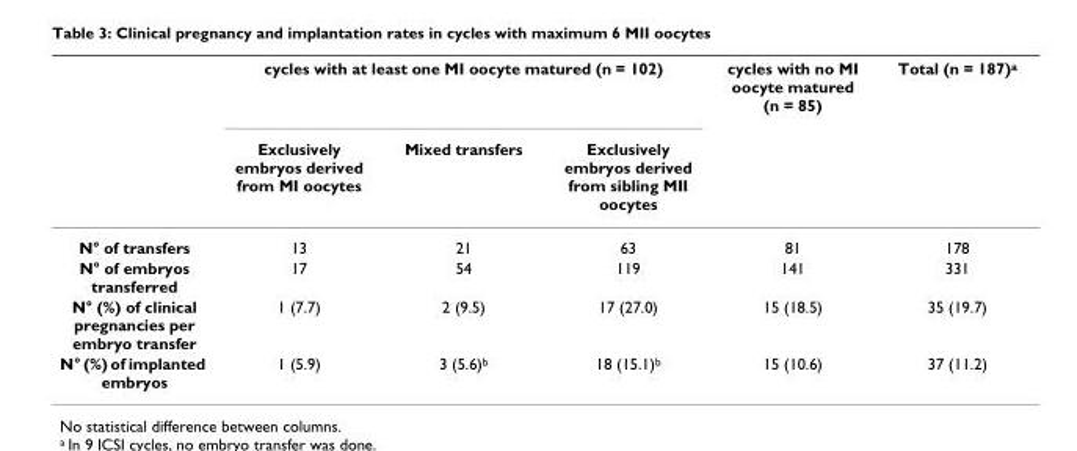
<table><thead><tr><td rowspan="2"></td><td colspan="3">cycles with at least one MI oocyte matured (n = 102)</td><td rowspan="2">cycles with no MI oocyte matured (n = 85)</td><td rowspan="2">Total (n = 187)<sup>a</sup></td></tr><tr><td>Exclusively embryos derived from MI oocytes</td><td>Mixed transfers</td><td>Exclusively embryos derived from sibling MII oocytes</td></tr></thead><tbody><tr><td>N° of transfers</td><td>13</td><td>21</td><td>63</td><td>81</td><td>178</td></tr><tr><td>N° of embryos transferred</td><td>17</td><td>54</td><td>119</td><td>141</td><td>331</td></tr><tr><td>N° (%) of clinical pregnancies per embryo transfer</td><td>1 (7.7)</td><td>2 (9.5)</td><td>17 (27.0)</td><td>15 (18.5)</td><td>35 (19.7)</td></tr><tr><td>N° (%) of implanted embryos</td><td>1 (5.9)</td><td>3 (5.6)<sup>b</sup></td><td>18 (15.1)<sup>b</sup></td><td>15 (10.6)</td><td>37 (11.2)</td></tr></tbody></table>